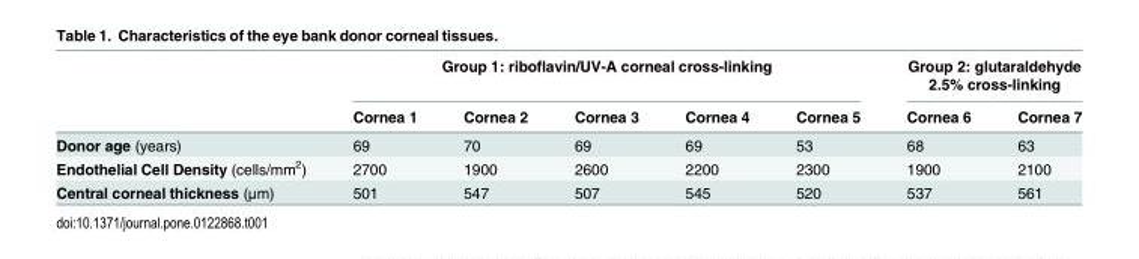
<table><thead><tr><td rowspan="2"></td><td colspan="5">Group 1: riboflavin/UV-A corneal cross-linking</td><td colspan="2">Group 2: glutaraldehyde 2.5% cross-linking</td></tr><tr><td>Cornea 1</td><td>Cornea 2</td><td>Cornea 3</td><td>Cornea 4</td><td>Cornea 5</td><td>Cornea 6</td><td>Cornea 7</td></tr></thead><tbody><tr><td>Donor age (years)</td><td>69</td><td>70</td><td>69</td><td>69</td><td>53</td><td>68</td><td>63</td></tr><tr><td>Endothelial Cell Density (cells/mm<sup>2</sup>)</td><td>2700</td><td>1900</td><td>2600</td><td>2200</td><td>2300</td><td>1900</td><td>2100</td></tr><tr><td>Central corneal thickness (μm)</td><td>501</td><td>547</td><td>507</td><td>545</td><td>520</td><td>537</td><td>561</td></tr></tbody></table>